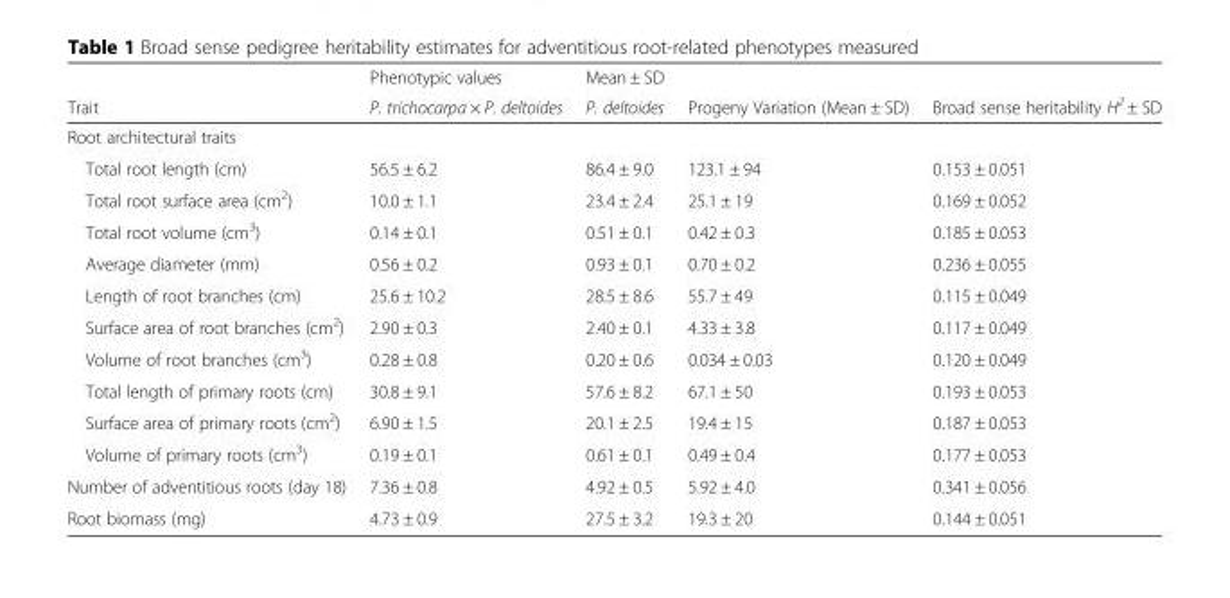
<table><thead><tr><td rowspan="2">Trait</td><td rowspan="2">Phenotypic values P. trichocarpa × P. deltoides</td><td rowspan="2">Mean ± SD P. deltoides</td><td rowspan="2">Progeny Variation (Mean ± SD)</td><td rowspan="2">Broad sense heritability H<sup>2</sup> ± SD</td></tr><tr></tr></thead><tbody><tr><td colspan="5">Root architectural traits</td></tr><tr><td>Total root length (cm)</td><td>56.5 ± 6.2</td><td>86.4 ± 9.0</td><td>123.1 ± 94</td><td>0.153 ± 0.051</td></tr><tr><td>Total root surface area (cm<sup>2</sup>)</td><td>10.0 ± 1.1</td><td>23.4 ± 2.4</td><td>25.1 ± 19</td><td>0.169 ± 0.052</td></tr><tr><td>Total root volume (cm<sup>3</sup>)</td><td>0.14 ± 0.1</td><td>0.51 ± 0.1</td><td>0.42 ± 0.3</td><td>0.185 ± 0.053</td></tr><tr><td>Average diameter (mm)</td><td>0.56 ± 0.2</td><td>0.93 ± 0.1</td><td>0.70 ± 0.2</td><td>0.236 ± 0.055</td></tr><tr><td>Length of root branches (cm)</td><td>25.6 ± 10.2</td><td>28.5 ± 8.6</td><td>55.7 ± 49</td><td>0.115 ± 0.049</td></tr><tr><td>Surface area of root branches (cm<sup>2</sup>)</td><td>2.90 ± 0.3</td><td>2.40 ± 0.1</td><td>4.33 ± 3.8</td><td>0.117 ± 0.049</td></tr><tr><td>Volume of root branches (cm<sup>3</sup>)</td><td>0.28 ± 0.8</td><td>0.20 ± 0.6</td><td>0.034 ± 0.03</td><td>0.120 ± 0.049</td></tr><tr><td>Total length of primary roots (cm)</td><td>30.8 ± 9.1</td><td>57.6 ± 8.2</td><td>67.1 ± 50</td><td>0.193 ± 0.053</td></tr><tr><td>Surface area of primary roots (cm<sup>2</sup>)</td><td>6.90 ± 1.5</td><td>20.1 ± 2.5</td><td>19.4 ± 15</td><td>0.187 ± 0.053</td></tr><tr><td>Volume of primary roots (cm<sup>3</sup>)</td><td>0.19 ± 0.1</td><td>0.61 ± 0.1</td><td>0.49 ± 0.4</td><td>0.177 ± 0.053</td></tr><tr><td>Number of adventitious roots (day 18)</td><td>7.36 ± 0.8</td><td>4.92 ± 0.5</td><td>5.92 ± 4.0</td><td>0.341 ± 0.056</td></tr><tr><td>Root biomass (mg)</td><td>4.73 ± 0.9</td><td>27.5 ± 3.2</td><td>19.3 ± 20</td><td>0.144 ± 0.051</td></tr></tbody></table>